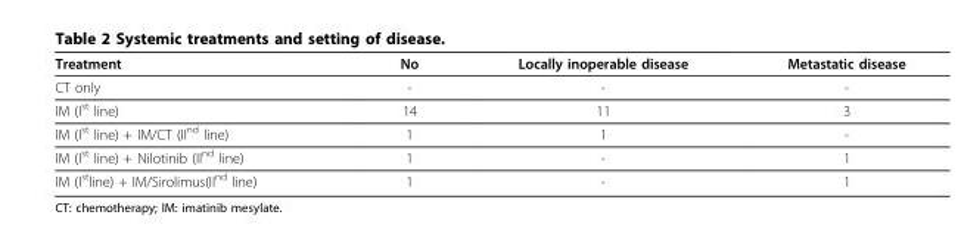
<table><thead><tr><td>Treatment</td><td>No</td><td>Locally inoperable disease</td><td>Metastatic disease</td></tr></thead><tbody><tr><td>CT only</td><td>-</td><td>-</td><td>-</td></tr><tr><td>IM (I<sup>st</sup> line)</td><td>14</td><td>11</td><td>3</td></tr><tr><td>IM (I<sup>st</sup> line) + IM/CT (II<sup>nd</sup> line)</td><td>1</td><td>1</td><td>-</td></tr><tr><td>IM (I<sup>st</sup> line) + Nilotinib (II<sup>nd</sup> line)</td><td>1</td><td>-</td><td>1</td></tr><tr><td>IM (I<sup>st</sup>line) + IM/Sirolimus(II<sup>nd</sup> line)</td><td>1</td><td>-</td><td>1</td></tr></tbody></table>